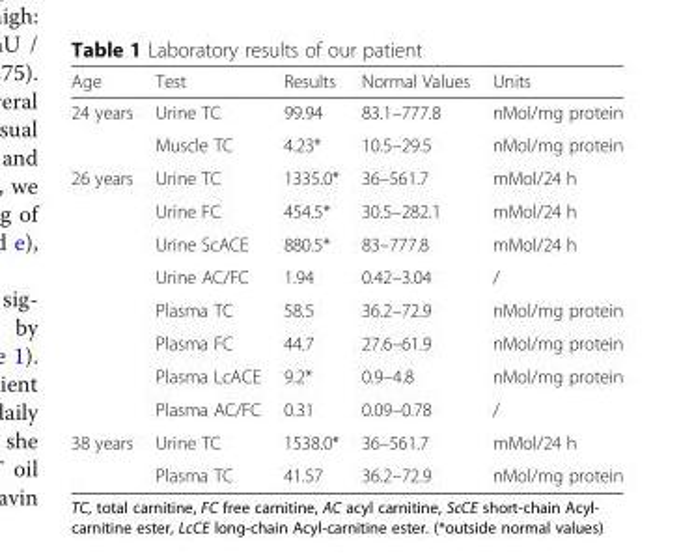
<table><thead><tr><td>Age</td><td>Test</td><td>Results</td><td>Normal Values</td><td>Units</td></tr></thead><tbody><tr><td rowspan="2">24 years</td><td>Urine TC</td><td>99.94</td><td>83.1–777.8</td><td>nMol/mg protein</td></tr><tr><td>Muscle TC</td><td>4.23*</td><td>10.5–29.5</td><td>nMol/mg protein</td></tr><tr><td rowspan="8">26 years</td><td>Urine TC</td><td>1335.0*</td><td>36–561.7</td><td>mMol/24 h</td></tr><tr><td>Urine FC</td><td>454.5*</td><td>30.5–282.1</td><td>mMol/24 h</td></tr><tr><td>Urine ScACE</td><td>880.5*</td><td>83–777.8</td><td>mMol/24 h</td></tr><tr><td>Urine AC/FC</td><td>1.94</td><td>0.42–3.04</td><td>/</td></tr><tr><td>Plasma TC</td><td>58.5</td><td>36.2–72.9</td><td>nMol/mg protein</td></tr><tr><td>Plasma FC</td><td>44.7</td><td>27.6–61.9</td><td>nMol/mg protein</td></tr><tr><td>Plasma LcACE</td><td>9.2*</td><td>0.9–4.8</td><td>nMol/mg protein</td></tr><tr><td>Plasma AC/FC</td><td>0.31</td><td>0.09–0.78</td><td>/</td></tr><tr><td rowspan="2">38 years</td><td>Urine TC</td><td>1538.0*</td><td>36–561.7</td><td>mMol/24 h</td></tr><tr><td>Plasma TC</td><td>41.57</td><td>36.2–72.9</td><td>nMol/mg protein</td></tr></tbody></table>